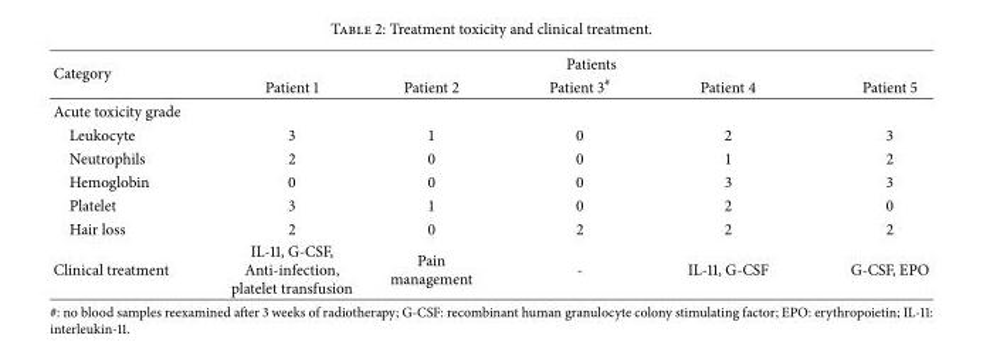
<table><thead><tr><td rowspan="2">Category</td><td colspan="5">Patients</td></tr><tr><td>Patient 1</td><td>Patient 2</td><td>Patient 3<sup>#</sup></td><td>Patient 4</td><td>Patient 5</td></tr></thead><tbody><tr><td colspan="6">Acute toxicity grade</td></tr><tr><td>Leukocyte</td><td>3</td><td>1</td><td>0</td><td>2</td><td>3</td></tr><tr><td>Neutrophils</td><td>2</td><td>0</td><td>0</td><td>1</td><td>2</td></tr><tr><td>Hemoglobin</td><td>0</td><td>0</td><td>0</td><td>3</td><td>3</td></tr><tr><td>Platelet</td><td>3</td><td>1</td><td>0</td><td>2</td><td>0</td></tr><tr><td>Hair loss</td><td>2</td><td>0</td><td>2</td><td>2</td><td>2</td></tr><tr><td>Clinical treatment</td><td>IL-11, G-CSF, Anti-infection, platelet transfusion</td><td>Pain management</td><td>-</td><td>IL-11, G-CSF</td><td>G-CSF, EPO</td></tr></tbody></table>